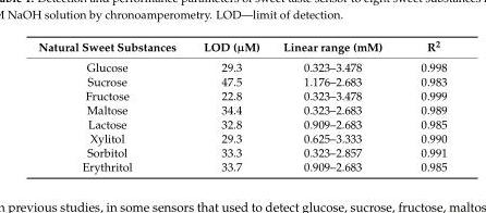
<table><thead><tr><td>Natural Sweet Substances</td><td>LOD (µM)</td><td>Linear range (mM)</td><td>R<sup>2</sup></td></tr></thead><tbody><tr><td>Glucose</td><td>29.3</td><td>0.323–3.478</td><td>0.998</td></tr><tr><td>Sucrose</td><td>47.5</td><td>1.176–2.683</td><td>0.983</td></tr><tr><td>Fructose</td><td>22.8</td><td>0.323–3.478</td><td>0.999</td></tr><tr><td>Maltose</td><td>34.4</td><td>0.323–2.683</td><td>0.989</td></tr><tr><td>Lactose</td><td>32.8</td><td>0.909–2.683</td><td>0.985</td></tr><tr><td>Xylitol</td><td>29.3</td><td>0.625–3.333</td><td>0.990</td></tr><tr><td>Sorbitol</td><td>33.3</td><td>0.323–2.857</td><td>0.991</td></tr><tr><td>Erythritol</td><td>33.7</td><td>0.909–2.683</td><td>0.985</td></tr></tbody></table>